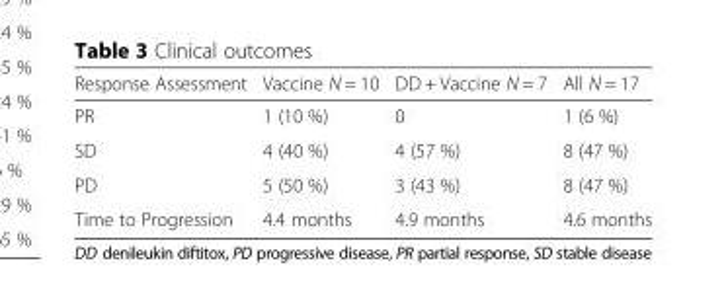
<table><thead><tr><td>Response Assessment</td><td>Vaccine N = 10</td><td>DD + Vaccine N = 7</td><td>All N = 17</td></tr></thead><tbody><tr><td>PR</td><td>1 (10 %)</td><td>0</td><td>1 (6 %)</td></tr><tr><td>SD</td><td>4 (40 %)</td><td>4 (57 %)</td><td>8 (47 %)</td></tr><tr><td>PD</td><td>5 (50 %)</td><td>3 (43 %)</td><td>8 (47 %)</td></tr><tr><td>Time to Progression</td><td>4.4 months</td><td>4.9 months</td><td>4.6 months</td></tr></tbody></table>